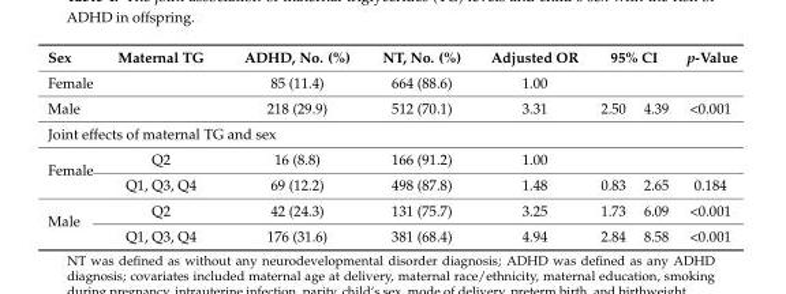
<table><thead><tr><td rowspan="2">Sex Female</td><td rowspan="2">Maternal TG</td><td rowspan="2">ADHD, No. (%) 85 (11.4)</td><td rowspan="2">NT, No. (%) 664 (88.6)</td><td rowspan="2">Adjusted OR 1.00</td><td colspan="2">95% CI</td><td rowspan="2">p-Value</td></tr><tr><td></td><td></td></tr></thead><tbody><tr><td>Male</td><td></td><td>218 (29.9)</td><td>512 (70.1)</td><td>3.31</td><td>2.50</td><td>4.39</td><td>&lt;0.001</td></tr><tr><td colspan="8">Joint effects of maternal TG and sex</td></tr><tr><td rowspan="2">Female</td><td>Q2</td><td>16 (8.8)</td><td>166 (91.2)</td><td>1.00</td><td></td><td></td><td></td></tr><tr><td>Q1, Q3, Q4</td><td>69 (12.2)</td><td>498 (87.8)</td><td>1.48</td><td>0.83</td><td>2.65</td><td>0.184</td></tr><tr><td rowspan="2">Male</td><td>Q2</td><td>42 (24.3)</td><td>131 (75.7)</td><td>3.25</td><td>1.73</td><td>6.09</td><td>&lt;0.001</td></tr><tr><td>Q1, Q3, Q4</td><td>176 (31.6)</td><td>381 (68.4)</td><td>4.94</td><td>2.84</td><td>8.58</td><td>&lt;0.001</td></tr></tbody></table>